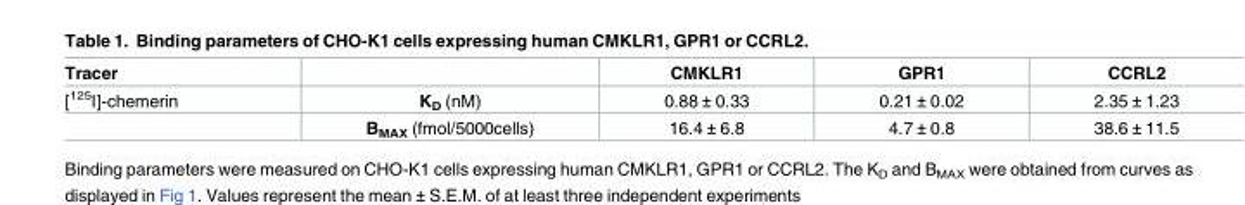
<table><thead><tr><td>Tracer</td><td></td><td>CMKLR1</td><td>GPR1</td><td>CCRL2</td></tr></thead><tbody><tr><td rowspan="2">[<sup>125</sup>I]-chemerin</td><td>K<sub>D</sub> (nM)</td><td>0.88 ± 0.33</td><td>0.21 ± 0.02</td><td>2.35 ± 1.23</td></tr><tr><td>B<sub>MAX</sub> (fmol/5000cells)</td><td>16.4 ± 6.8</td><td>4.7 ± 0.8</td><td>38.6 ± 11.5</td></tr></tbody></table>